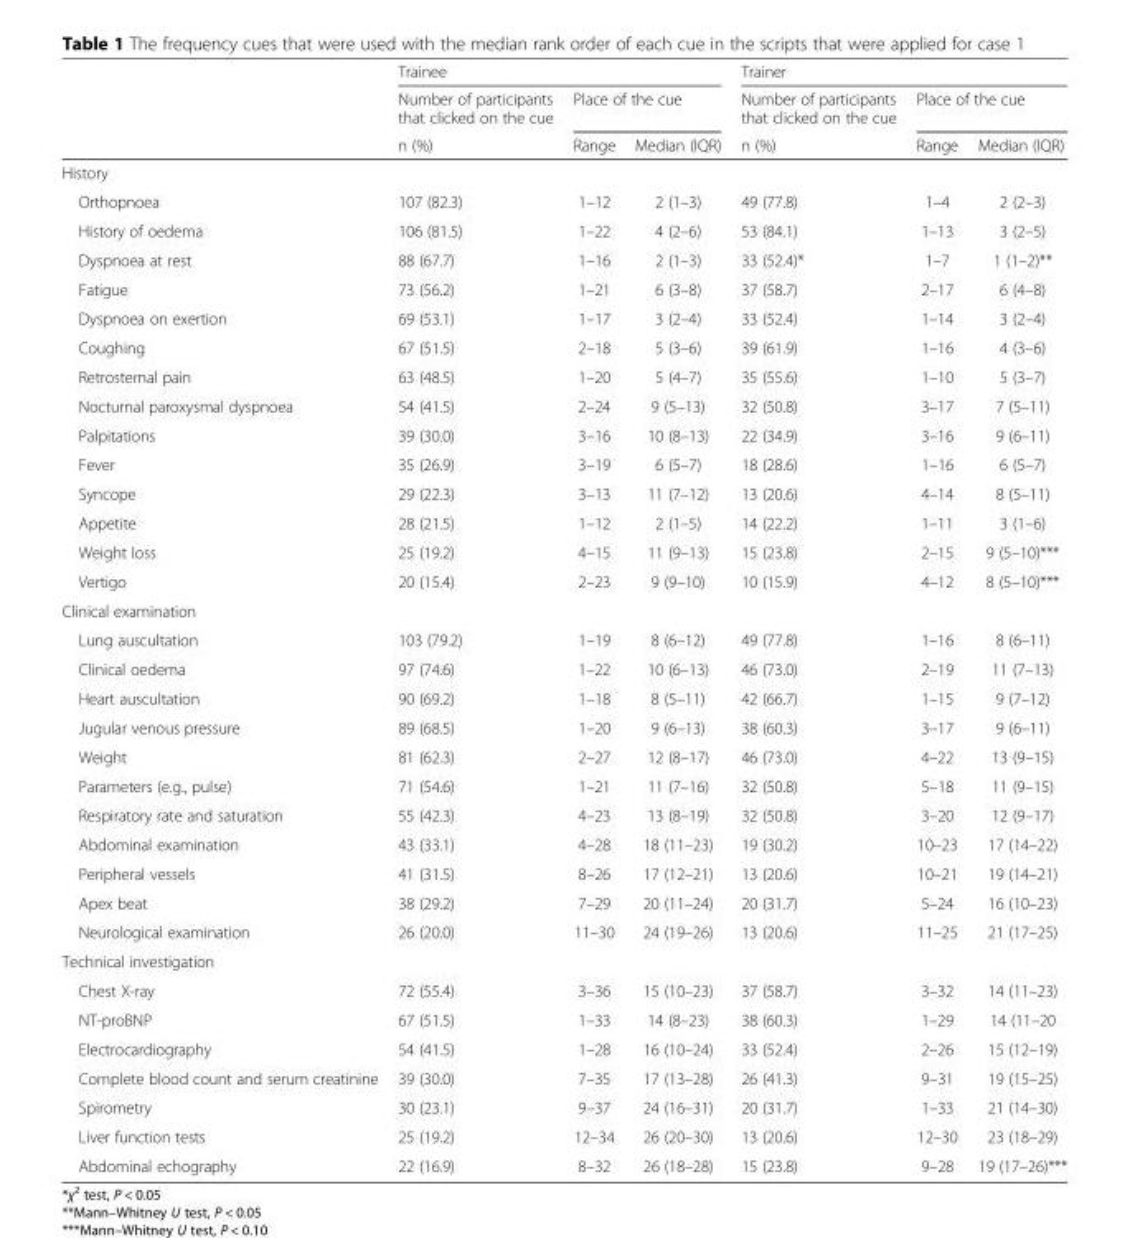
<table><thead><tr><td rowspan="3"></td><td colspan="3">Trainee</td><td colspan="3">Trainer</td></tr><tr><td rowspan="2">Number of participants that clicked on the cue n (%)</td><td colspan="2">Place of the cue</td><td rowspan="2">Number of participants that clicked on the cue n (%)</td><td colspan="2">Place of the cue</td></tr><tr><td>Range</td><td>Median (IQR)</td><td>Range</td><td>Median (IQR)</td></tr></thead><tbody><tr><td colspan="7">History</td></tr><tr><td>Orthopnoea</td><td>107 (82.3)</td><td>1–12</td><td>2 (1–3)</td><td>49 (77.8)</td><td>1–4</td><td>2 (2–3)</td></tr><tr><td>History of oedema</td><td>106 (81.5)</td><td>1–22</td><td>4 (2–6)</td><td>53 (84.1)</td><td>1–13</td><td>3 (2–5)</td></tr><tr><td>Dyspnoea at rest</td><td>88 (67.7)</td><td>1–16</td><td>2 (1–3)</td><td>33 (52.4)*</td><td>1–7</td><td>1 (1–2)**</td></tr><tr><td>Fatigue</td><td>73 (56.2)</td><td>1–21</td><td>6 (3–8)</td><td>37 (58.7)</td><td>2–17</td><td>6 (4–8)</td></tr><tr><td>Dyspnoea on exertion</td><td>69 (53.1)</td><td>1–17</td><td>3 (2–4)</td><td>33 (52.4)</td><td>1–14</td><td>3 (2–4)</td></tr><tr><td>Coughing</td><td>67 (51.5)</td><td>2–18</td><td>5 (3–6)</td><td>39 (61.9)</td><td>1–16</td><td>4 (3–6)</td></tr><tr><td>Retrosternal pain</td><td>63 (48.5)</td><td>1–20</td><td>5 (4–7)</td><td>35 (55.6)</td><td>1–10</td><td>5 (3–7)</td></tr><tr><td>Nocturnal paroxysmal dyspnoea</td><td>54 (41.5)</td><td>2–24</td><td>9 (5–13)</td><td>32 (50.8)</td><td>3–17</td><td>7 (5–11)</td></tr><tr><td>Palpitations</td><td>39 (30.0)</td><td>3–16</td><td>10 (8–13)</td><td>22 (34.9)</td><td>3–16</td><td>9 (6–11)</td></tr><tr><td>Fever</td><td>35 (26.9)</td><td>3–19</td><td>6 (5–7)</td><td>18 (28.6)</td><td>1–16</td><td>6 (5–7)</td></tr><tr><td>Syncope</td><td>29 (22.3)</td><td>3–13</td><td>11 (7–12)</td><td>13 (20.6)</td><td>4–14</td><td>8 (5–11)</td></tr><tr><td>Appetite</td><td>28 (21.5)</td><td>1–12</td><td>2 (1–5)</td><td>14 (22.2)</td><td>1–11</td><td>3 (1–6)</td></tr><tr><td>Weight loss</td><td>25 (19.2)</td><td>4–15</td><td>11 (9–13)</td><td>15 (23.8)</td><td>2–15</td><td>9 (5–10)***</td></tr><tr><td>Vertigo</td><td>20 (15.4)</td><td>2–23</td><td>9 (9–10)</td><td>10 (15.9)</td><td>4–12</td><td>8 (5–10)***</td></tr><tr><td colspan="7">Clinical examination</td></tr><tr><td>Lung auscultation</td><td>103 (79.2)</td><td>1–19</td><td>8 (6–12)</td><td>49 (77.8)</td><td>1–16</td><td>8 (6–11)</td></tr><tr><td>Clinical oedema</td><td>97 (74.6)</td><td>1–22</td><td>10 (6–13)</td><td>46 (73.0)</td><td>2–19</td><td>11 (7–13)</td></tr><tr><td>Heart auscultation</td><td>90 (69.2)</td><td>1–18</td><td>8 (5–11)</td><td>42 (66.7)</td><td>1–15</td><td>9 (7–12)</td></tr><tr><td>Jugular venous pressure</td><td>89 (68.5)</td><td>1–20</td><td>9 (6–13)</td><td>38 (60.3)</td><td>3–17</td><td>9 (6–11)</td></tr><tr><td>Weight</td><td>81 (62.3)</td><td>2–27</td><td>12 (8–17)</td><td>46 (73.0)</td><td>4–22</td><td>13 (9–15)</td></tr><tr><td>Parameters (e.g., pulse)</td><td>71 (54.6)</td><td>1–21</td><td>11 (7–16)</td><td>32 (50.8)</td><td>5–18</td><td>11 (9–15)</td></tr><tr><td>Respiratory rate and saturation</td><td>55 (42.3)</td><td>4–23</td><td>13 (8–19)</td><td>32 (50.8)</td><td>3–20</td><td>12 (9–17)</td></tr><tr><td>Abdominal examination</td><td>43 (33.1)</td><td>4–28</td><td>18 (11–23)</td><td>19 (30.2)</td><td>10–23</td><td>17 (14–22)</td></tr><tr><td>Peripheral vessels</td><td>41 (31.5)</td><td>8–26</td><td>17 (12–21)</td><td>13 (20.6)</td><td>10–21</td><td>19 (14–21)</td></tr><tr><td>Apex beat</td><td>38 (29.2)</td><td>7–29</td><td>20 (11–24)</td><td>20 (31.7)</td><td>5–24</td><td>16 (10–23)</td></tr><tr><td>Neurological examination</td><td>26 (20.0)</td><td>11–30</td><td>24 (19–26)</td><td>13 (20.6)</td><td>11–25</td><td>21 (17–25)</td></tr><tr><td colspan="7">Technical investigation</td></tr><tr><td>Chest X-ray</td><td>72 (55.4)</td><td>3–36</td><td>15 (10–23)</td><td>37 (58.7)</td><td>3–32</td><td>14 (11–23)</td></tr><tr><td>NT-proBNP</td><td>67 (51.5)</td><td>1–33</td><td>14 (8–23)</td><td>38 (60.3)</td><td>1–29</td><td>14 (11–20</td></tr><tr><td>Electrocardiography</td><td>54 (41.5)</td><td>1–28</td><td>16 (10–24)</td><td>33 (52.4)</td><td>2–26</td><td>15 (12–19)</td></tr><tr><td>Complete blood count and serum creatinine</td><td>39 (30.0)</td><td>7–35</td><td>17 (13–28)</td><td>26 (41.3)</td><td>9–31</td><td>19 (15–25)</td></tr><tr><td>Spirometry</td><td>30 (23.1)</td><td>9–37</td><td>24 (16–31)</td><td>20 (31.7)</td><td>1–33</td><td>21 (14–30)</td></tr><tr><td>Liver function tests</td><td>25 (19.2)</td><td>12–34</td><td>26 (20–30)</td><td>13 (20.6)</td><td>12–30</td><td>23 (18–29)</td></tr><tr><td>Abdominal echography</td><td>22 (16.9)</td><td>8–32</td><td>26 (18–28)</td><td>15 (23.8)</td><td>9–28</td><td>19 (17–26)***</td></tr></tbody></table>